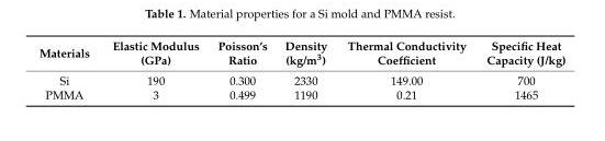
<table><thead><tr><td>Materials</td><td>Elastic Modulus (GPa)</td><td>Poisson’s Ratio</td><td>Density (kg/m<sup>3</sup>)</td><td>Thermal Conductivity Coefficient</td><td>Specific Heat Capacity (J/kg)</td></tr></thead><tbody><tr><td>Si</td><td>190</td><td>0.300</td><td>2330</td><td>149.00</td><td>700</td></tr><tr><td>PMMA</td><td>3</td><td>0.499</td><td>1190</td><td>0.21</td><td>1465</td></tr></tbody></table>